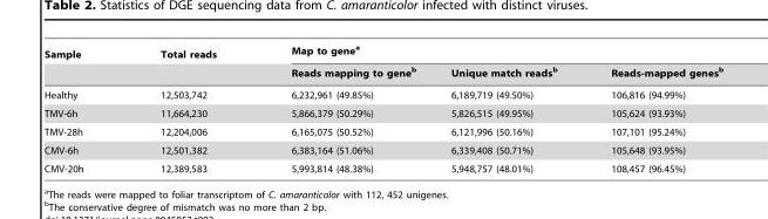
<table><thead><tr><td rowspan="2">Sample</td><td rowspan="2">Total reads</td><td colspan="3">Map to gene<sup>a</sup></td></tr><tr><td>Reads mapping to gene<sup>b</sup></td><td>Unique match reads<sup>b</sup></td><td>Reads-mapped genes<sup>b</sup></td></tr></thead><tbody><tr><td>Healthy</td><td>12,503,742</td><td>6,232,961 (49.85%)</td><td>6,189,719 (49.50%)</td><td>106,816 (94.99%)</td></tr><tr><td>TMV-6h</td><td>11,664,230</td><td>5,866,379 (50.29%)</td><td>5,826,515 (49.95%)</td><td>105,624 (93.93%)</td></tr><tr><td>TMV-28h</td><td>12,204,006</td><td>6,165,075 (50.52%)</td><td>6,121,996 (50.16%)</td><td>107,101 (95.24%)</td></tr><tr><td>CMV-6h</td><td>12,501,382</td><td>6,383,164 (51.06%)</td><td>6,339,408 (50.71%)</td><td>105,648 (93.95%)</td></tr><tr><td>CMV-20h</td><td>12,389,583</td><td>5,993,814 (48.38%)</td><td>5,948,757 (48.01%)</td><td>108,457 (96.45%)</td></tr></tbody></table>